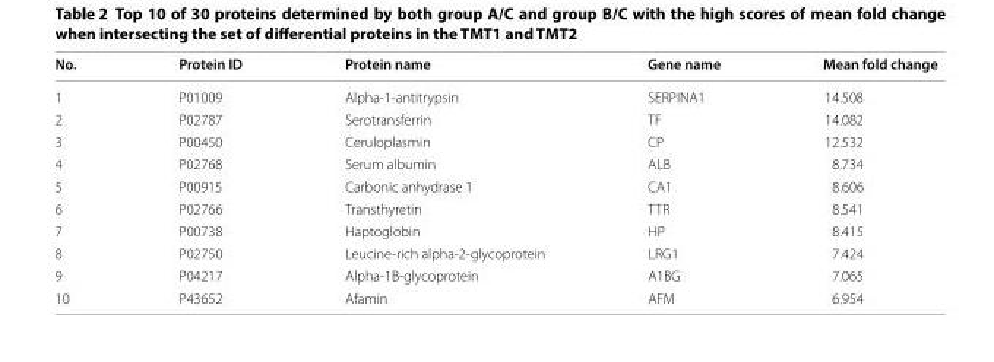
<table><thead><tr><td>No.</td><td>Protein ID</td><td>Protein name</td><td>Gene name</td><td>Mean fold change</td></tr></thead><tbody><tr><td>1</td><td>P01009</td><td>Alpha-1-antitrypsin</td><td>SERPINA1</td><td>14.508</td></tr><tr><td>2</td><td>P02787</td><td>Serotransferrin</td><td>TF</td><td>14.082</td></tr><tr><td>3</td><td>P00450</td><td>Ceruloplasmin</td><td>CP</td><td>12.532</td></tr><tr><td>4</td><td>P02768</td><td>Serum albumin</td><td>ALB</td><td>8.734</td></tr><tr><td>5</td><td>P00915</td><td>Carbonic anhydrase 1</td><td>CA1</td><td>8.606</td></tr><tr><td>6</td><td>P02766</td><td>Transthyretin</td><td>TTR</td><td>8.541</td></tr><tr><td>7</td><td>P00738</td><td>Haptoglobin</td><td>HP</td><td>8.415</td></tr><tr><td>8</td><td>P02750</td><td>Leucine-rich alpha-2-glycoprotein</td><td>LRG1</td><td>7.424</td></tr><tr><td>9</td><td>P04217</td><td>Alpha-1B-glycoprotein</td><td>A1BG</td><td>7.065</td></tr><tr><td>10</td><td>P43652</td><td>Afamin</td><td>AFM</td><td>6.954</td></tr></tbody></table>